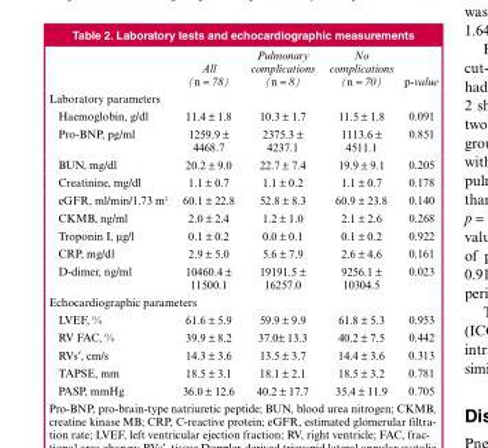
<table><thead><tr><td></td><td>All (n = 78)</td><td>Pulmonary complications (n = 8)</td><td>No complications (n = 70)</td><td>p-value</td></tr></thead><tbody><tr><td colspan="5">Laboratory parameters</td></tr><tr><td>Haemoglobin, g/dl</td><td>11.4 ± 1.8</td><td>10.3 ± 1.7</td><td>11.5 ± 1.8</td><td>0.091</td></tr><tr><td>Pro-BNP, pg/ml</td><td>1259.9 ± 4468.7</td><td>2375.3 ± 4237.1</td><td>1113.6 ± 4511.1</td><td>0.851</td></tr><tr><td>BUN, mg/dl</td><td>20.2 ± 9.0</td><td>22.7 ± 7.4</td><td>19.9 ± 9.1</td><td>0.205</td></tr><tr><td>Creatinine, mg/dl</td><td>1.1 ± 0.7</td><td>1.1 ± 0.2</td><td>1.1 ± 0.7</td><td>0.178</td></tr><tr><td>eGFR, ml/min/1.73 m<sup>2</sup></td><td>60.1 ± 22.8</td><td>52.8 ± 8.3</td><td>60.9 ± 23.8</td><td>0.140</td></tr><tr><td>CKMB, ng/ml</td><td>2.0 ± 2.4</td><td>1.2 ± 1.0</td><td>2.1 ± 2.6</td><td>0.268</td></tr><tr><td>Troponin I, μg/l</td><td>0.1 ± 0.2</td><td>0.0 ± 0.1</td><td>0.1 ± 0.2</td><td>0.922</td></tr><tr><td>CRP, mg/dl</td><td>2.9 ± 5.0</td><td>5.6 ± 7.9</td><td>2.6 ± 4.6</td><td>0.161</td></tr><tr><td>D-dimer, ng/ml</td><td>10460.4 ± 11500.1</td><td>19191.5 ± 16257.0</td><td>9256.1 ± 10304.5</td><td>0.023</td></tr><tr><td colspan="5">Echocardiographic parameters</td></tr><tr><td>LVEF, %</td><td>61.6 ± 5.9</td><td>59.9 ± 9.9</td><td>61.8 ± 5.3</td><td>0.953</td></tr><tr><td>RV FAC, %</td><td>39.9 ± 8.2</td><td>37.0± 13.3</td><td>40.2 ± 7.5</td><td>0.442</td></tr><tr><td>RVs′, cm/s</td><td>14.3 ± 3.6</td><td>13.5 ± 3.7</td><td>14.4 ± 3.6</td><td>0.313</td></tr><tr><td>TAPSE, mm</td><td>18.5 ± 3.1</td><td>18.1 ± 2.1</td><td>18.5 ± 3.2</td><td>0.781</td></tr><tr><td>PASP, mmHg</td><td>36.0 ± 12.6</td><td>40.2 ± 17.7</td><td>35.4 ± 11.9</td><td>0.705</td></tr></tbody></table>